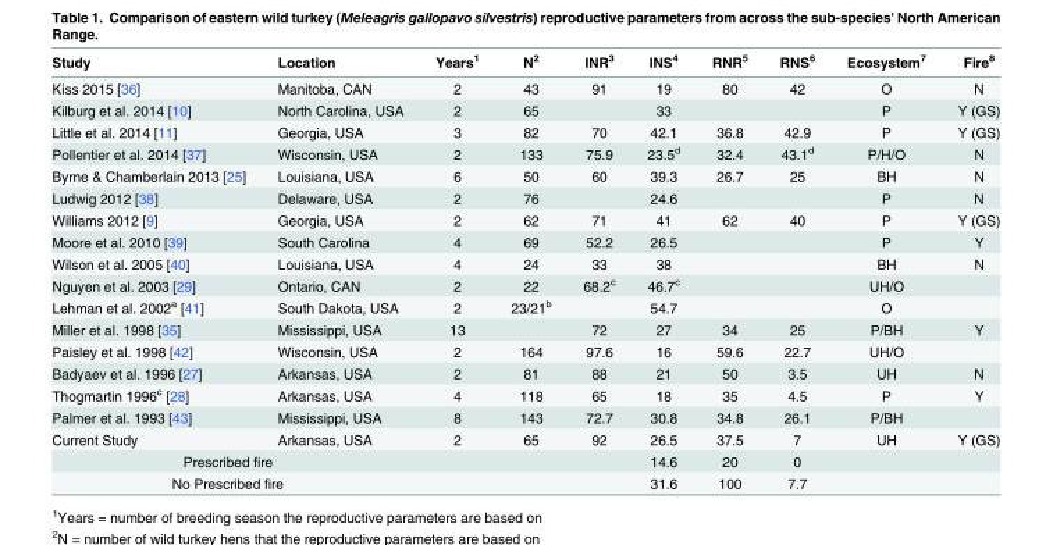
<table><thead><tr><td>Study</td><td>Location</td><td>Years<sup>1</sup></td><td>N<sup>2</sup></td><td>INR<sup>3</sup></td><td>INS<sup>4</sup></td><td>RNR<sup>5</sup></td><td>RNS<sup>6</sup></td><td>Ecosystem<sup>7</sup></td><td>Fire<sup>8</sup></td></tr></thead><tbody><tr><td>Kiss 2015 [36]</td><td>Manitoba, CAN</td><td>2</td><td>43</td><td>91</td><td>19</td><td>80</td><td>42</td><td>O</td><td>N</td></tr><tr><td>Kilburg et al. 2014 [10]</td><td>North Carolina, USA</td><td>2</td><td>65</td><td></td><td>33</td><td></td><td></td><td>P</td><td>Y (GS)</td></tr><tr><td>Little et al. 2014 [11]</td><td>Georgia, USA</td><td>3</td><td>82</td><td>70</td><td>42.1</td><td>36.8</td><td>42.9</td><td>P</td><td>Y (GS)</td></tr><tr><td>Pollentier et al. 2014 [37]</td><td>Wisconsin, USA</td><td>2</td><td>133</td><td>75.9</td><td>23.5<sup>d</sup></td><td>32.4</td><td>43.1<sup>d</sup></td><td>P/H/O</td><td>N</td></tr><tr><td>Byrne &amp; Chamberlain 2013 [25]</td><td>Louisiana, USA</td><td>6</td><td>50</td><td>60</td><td>39.3</td><td>26.7</td><td>25</td><td>BH</td><td>N</td></tr><tr><td>Ludwig 2012 [38]</td><td>Delaware, USA</td><td>2</td><td>76</td><td></td><td>24.6</td><td></td><td></td><td>P</td><td>N</td></tr><tr><td>Williams 2012 [9]</td><td>Georgia, USA</td><td>2</td><td>62</td><td>71</td><td>41</td><td>62</td><td>40</td><td>P</td><td>Y (GS)</td></tr><tr><td>Moore et al. 2010 [39]</td><td>South Carolina</td><td>4</td><td>69</td><td>52.2</td><td>26.5</td><td></td><td></td><td>P</td><td>Y</td></tr><tr><td>Wilson et al. 2005 [40]</td><td>Louisiana, USA</td><td>4</td><td>24</td><td>33</td><td>38</td><td></td><td></td><td>BH</td><td>N</td></tr><tr><td>Nguyen et al. 2003 [29]</td><td>Ontario, CAN</td><td>2</td><td>22</td><td>68.2<sup>c</sup></td><td>46.7<sup>c</sup></td><td></td><td></td><td>UH/O</td><td></td></tr><tr><td>Lehman et al. 2002<sup>a</sup> [41]</td><td>South Dakota, USA</td><td>2</td><td>23/21<sup>b</sup></td><td></td><td>54.7</td><td></td><td></td><td>O</td><td></td></tr><tr><td>Miller et al. 1998 [35]</td><td>Mississippi, USA</td><td>13</td><td></td><td>72</td><td>27</td><td>34</td><td>25</td><td>P/BH</td><td>Y</td></tr><tr><td>Paisley et al. 1998 [42]</td><td>Wisconsin, USA</td><td>2</td><td>164</td><td>97.6</td><td>16</td><td>59.6</td><td>22.7</td><td>UH/O</td><td></td></tr><tr><td>Badyaev et al. 1996 [27]</td><td>Arkansas, USA</td><td>2</td><td>81</td><td>88</td><td>21</td><td>50</td><td>3.5</td><td>UH</td><td>N</td></tr><tr><td>Thogmartin 1996<sup>c</sup> [28]</td><td>Arkansas, USA</td><td>4</td><td>118</td><td>65</td><td>18</td><td>35</td><td>4.5</td><td>P</td><td>Y</td></tr><tr><td>Palmer et al. 1993 [43]</td><td>Mississippi, USA</td><td>8</td><td>143</td><td>72.7</td><td>30.8</td><td>34.8</td><td>26.1</td><td>P/BH</td><td></td></tr><tr><td>Current Study</td><td>Arkansas, USA</td><td>2</td><td>65</td><td>92</td><td>26.5</td><td>37.5</td><td>7</td><td>UH</td><td>Y (GS)</td></tr><tr><td colspan="2">Prescribed fire</td><td></td><td></td><td></td><td>14.6</td><td>20</td><td>0</td><td></td><td></td></tr><tr><td colspan="2">No Prescribed fire</td><td></td><td></td><td></td><td>31.6</td><td>100</td><td>7.7</td><td></td><td></td></tr></tbody></table>